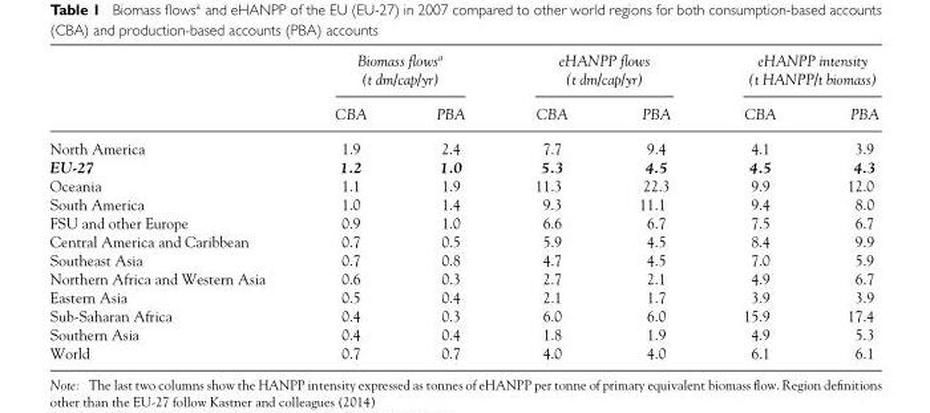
<table><thead><tr><td rowspan="3"></td><td rowspan="2" colspan="2">Biomass flowsa (t dm/cap/yr)</td><td rowspan="2" colspan="2">eHANPP flows (t dm/cap/yr)</td><td rowspan="2" colspan="2">eHANPP intensity (t HANPP/t biomass)</td></tr><tr></tr><tr><td>CBA</td><td>PBA</td><td>CBA</td><td>PBA</td><td>CBA</td><td>PBA</td></tr></thead><tbody><tr><td>North America</td><td>1.9</td><td>2.4</td><td>7.7</td><td>9.4</td><td>4.1</td><td>3.9</td></tr><tr><td>EU-27</td><td>1.2</td><td>1.0</td><td>5.3</td><td>4.5</td><td>4.5</td><td>4.3</td></tr><tr><td>Oceania</td><td>1.1</td><td>1.9</td><td>11.3</td><td>22.3</td><td>9.9</td><td>12.0</td></tr><tr><td>South America</td><td>1.0</td><td>1.4</td><td>9.3</td><td>11.1</td><td>9.4</td><td>8.0</td></tr><tr><td>FSU and other Europe</td><td>0.9</td><td>1.0</td><td>6.6</td><td>6.7</td><td>7.5</td><td>6.7</td></tr><tr><td>Central America and Caribbean</td><td>0.7</td><td>0.5</td><td>5.9</td><td>4.5</td><td>8.4</td><td>9.9</td></tr><tr><td>Southeast Asia</td><td>0.7</td><td>0.8</td><td>4.7</td><td>4.5</td><td>7.0</td><td>5.9</td></tr><tr><td>Northern Africa and Western Asia</td><td>0.6</td><td>0.3</td><td>2.7</td><td>2.1</td><td>4.9</td><td>6.7</td></tr><tr><td>Eastern Asia</td><td>0.5</td><td>0.4</td><td>2.1</td><td>1.7</td><td>3.9</td><td>3.9</td></tr><tr><td>Sub-Saharan Africa</td><td>0.4</td><td>0.3</td><td>6.0</td><td>6.0</td><td>15.9</td><td>17.4</td></tr><tr><td>Southern Asia</td><td>0.4</td><td>0.4</td><td>1.8</td><td>1.9</td><td>4.9</td><td>5.3</td></tr><tr><td>World</td><td>0.7</td><td>0.7</td><td>4.0</td><td>4.0</td><td>6.1</td><td>6.1</td></tr></tbody></table>